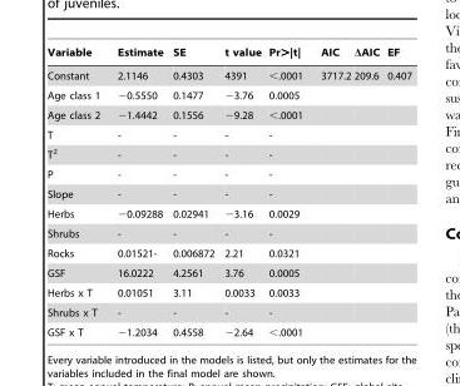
<table><thead><tr><td>Variable</td><td>Estimate</td><td>SE</td><td>t value</td><td>Pr&gt;|t|</td><td>AIC</td><td>ΔAIC</td><td>EF</td></tr></thead><tbody><tr><td>Constant</td><td>2.1146</td><td>0.4303</td><td>4391</td><td>&lt;.0001</td><td>3717.2</td><td>209.6</td><td>0.407</td></tr><tr><td>Age class 1</td><td>−0.5550</td><td>0.1477</td><td>−3.76</td><td>0.0005</td><td></td><td></td><td></td></tr><tr><td>Age class 2</td><td>−1.4442</td><td>0.1556</td><td>−9.28</td><td>&lt;.0001</td><td></td><td></td><td></td></tr><tr><td>T</td><td>-</td><td>-</td><td>-</td><td>-</td><td></td><td></td><td></td></tr><tr><td>T<sup>2</sup></td><td>-</td><td>-</td><td>-</td><td>-</td><td></td><td></td><td></td></tr><tr><td>P</td><td>-</td><td>-</td><td>-</td><td>-</td><td></td><td></td><td></td></tr><tr><td>Slope</td><td>-</td><td>-</td><td>-</td><td>-</td><td></td><td></td><td></td></tr><tr><td>Herbs</td><td>−0.09288</td><td>0.02941</td><td>−3.16</td><td>0.0029</td><td></td><td></td><td></td></tr><tr><td>Shrubs</td><td>-</td><td>-</td><td>-</td><td>-</td><td></td><td></td><td></td></tr><tr><td>Rocks</td><td>0.01521-</td><td>0.006872</td><td>2.21</td><td>0.0321</td><td></td><td></td><td></td></tr><tr><td>GSF</td><td>16.0222</td><td>4.2561</td><td>3.76</td><td>0.0005</td><td></td><td></td><td></td></tr><tr><td>Herbs x T</td><td>0.01051</td><td>3.11</td><td>0.0033</td><td>0.0033</td><td></td><td></td><td></td></tr><tr><td>Shrubs x T</td><td>-</td><td>-</td><td>-</td><td>-</td><td></td><td></td><td></td></tr><tr><td>GSF x T</td><td>−1.2034</td><td>0.4558</td><td>−2.64</td><td>&lt;.0001</td><td></td><td></td><td></td></tr></tbody></table>